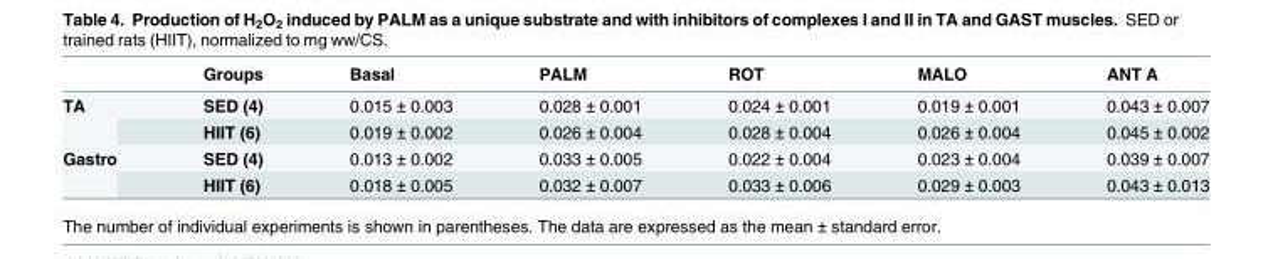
<table><thead><tr><td></td><td>Groups</td><td>Basal</td><td>PALM</td><td>ROT</td><td>MALO</td><td>ANT A</td></tr></thead><tbody><tr><td rowspan="2">TA</td><td>SED (4)</td><td>0.015 ± 0.003</td><td>0.028 ± 0.001</td><td>0.024 ± 0.001</td><td>0.019 ± 0.001</td><td>0.043 ± 0.007</td></tr><tr><td>HIIT (6)</td><td>0.019 ± 0.002</td><td>0.026 ± 0.004</td><td>0.028 ± 0.004</td><td>0.026 ± 0.004</td><td>0.045 ± 0.002</td></tr><tr><td rowspan="2">Gastro</td><td>SED (4)</td><td>0.013 ± 0.002</td><td>0.033 ± 0.005</td><td>0.022 ± 0.004</td><td>0.023 ± 0.004</td><td>0.039 ± 0.007</td></tr><tr><td>HIIT (6)</td><td>0.018 ± 0.005</td><td>0.032 ± 0.007</td><td>0.033 ± 0.006</td><td>0.029 ± 0.003</td><td>0.043 ± 0.013</td></tr></tbody></table>